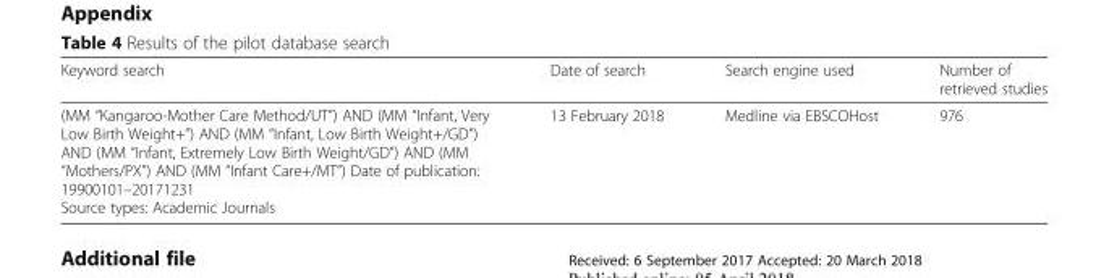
<table><thead><tr><td>Keyword search</td><td>Date of search</td><td>Search engine used</td><td>Number of retrieved studies</td></tr></thead><tbody><tr><td>(MM “Kangaroo-Mother Care Method/UT”) AND (MM “Infant, Very Low Birth Weight+”) AND (MM “Infant, Low Birth Weight+/GD”) AND (MM “Infant, Extremely Low Birth Weight/GD”) AND (MM “Mothers/PX”) AND (MM “Infant Care+/MT”) Date of publication: 19900101–20171231 Source types: Academic Journals</td><td>13 February 2018</td><td>Medline via EBSCOHost</td><td>976</td></tr></tbody></table>